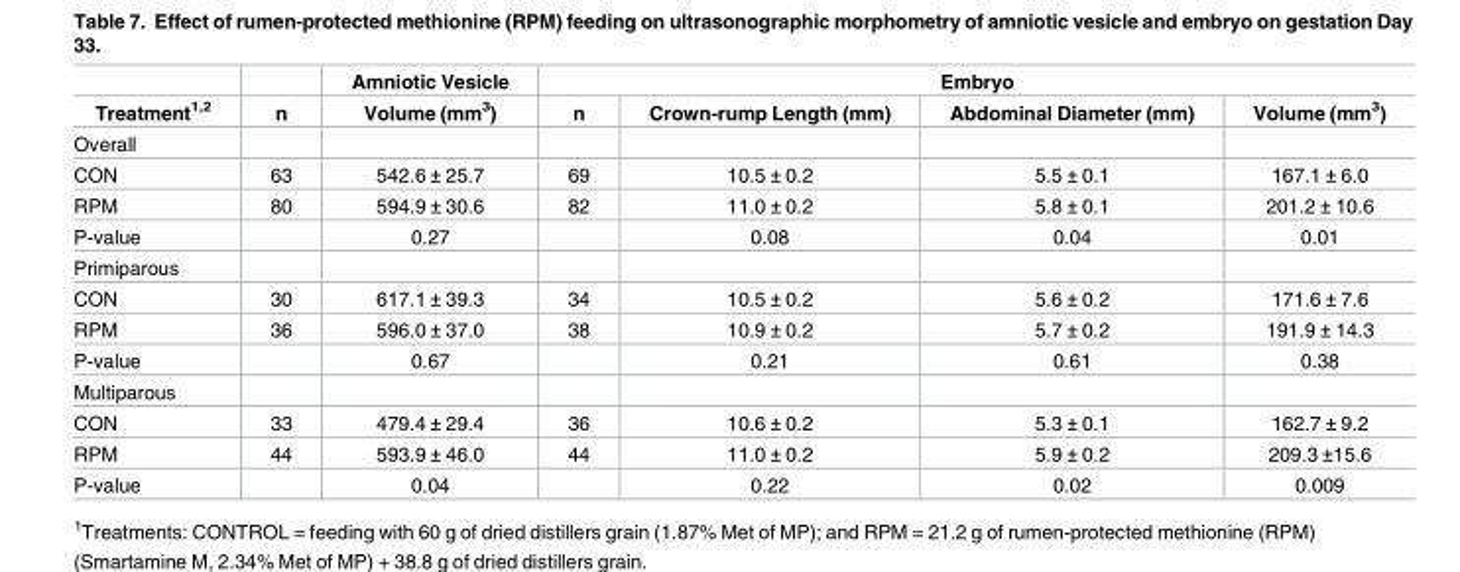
<table><thead><tr><td rowspan="2">Treatment<sup>1,2</sup></td><td rowspan="2">n</td><td rowspan="2">Amniotic Vesicle Volume (mm<sup>3</sup>)</td><td colspan="4">Embryo</td></tr><tr><td>n</td><td>Crown-rump Length (mm)</td><td>Abdominal Diameter (mm)</td><td>Volume (mm<sup>3</sup>)</td></tr></thead><tbody><tr><td colspan="7">Overall</td></tr><tr><td>CON</td><td>63</td><td>542.6 ± 25.7</td><td>69</td><td>10.5 ± 0.2</td><td>5.5 ± 0.1</td><td>167.1 ± 6.0</td></tr><tr><td>RPM</td><td>80</td><td>594.9 ± 30.6</td><td>82</td><td>11.0 ± 0.2</td><td>5.8 ± 0.1</td><td>201.2 ± 10.6</td></tr><tr><td>P-value</td><td></td><td>0.27</td><td></td><td>0.08</td><td>0.04</td><td>0.01</td></tr><tr><td colspan="7">Primiparous</td></tr><tr><td>CON</td><td>30</td><td>617.1 ± 39.3</td><td>34</td><td>10.5 ± 0.2</td><td>5.6 ± 0.2</td><td>171.6 ± 7.6</td></tr><tr><td>RPM</td><td>36</td><td>596.0 ± 37.0</td><td>38</td><td>10.9 ± 0.2</td><td>5.7 ± 0.2</td><td>191.9 ± 14.3</td></tr><tr><td>P-value</td><td></td><td>0.67</td><td></td><td>0.21</td><td>0.61</td><td>0.38</td></tr><tr><td colspan="7">Multiparous</td></tr><tr><td>CON</td><td>33</td><td>479.4 ± 29.4</td><td>36</td><td>10.6 ± 0.2</td><td>5.3 ± 0.1</td><td>162.7 ± 9.2</td></tr><tr><td>RPM</td><td>44</td><td>593.9 ± 46.0</td><td>44</td><td>11.0 ± 0.2</td><td>5.9 ± 0.2</td><td>209.3 ±15.6</td></tr><tr><td>P-value</td><td></td><td>0.04</td><td></td><td>0.22</td><td>0.02</td><td>0.009</td></tr></tbody></table>